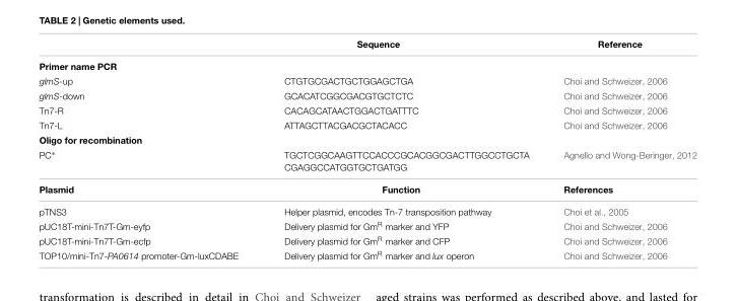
<table><thead><tr><td></td><td>Sequence</td><td>Reference</td></tr></thead><tbody><tr><td colspan="3">Primer name PCR</td></tr><tr><td>glmS-up</td><td>CTGTGCGACTGCTGGAGCTGA</td><td>Choi and Schweizer, 2006</td></tr><tr><td>glmS-down</td><td>GCACATCGGCGACGTGCTCTC</td><td>Choi and Schweizer, 2006</td></tr><tr><td>Tn7-R</td><td>CACAGCATAACTGGACTGATTTC</td><td>Choi and Schweizer, 2006</td></tr><tr><td>Tn7-L</td><td>ATTAGCTTACGACGCTACACC</td><td>Choi and Schweizer, 2006</td></tr><tr><td colspan="3">Oligo for recombination</td></tr><tr><td>PC∗</td><td>TGCTCGGCAAGTTCCACCCGCACGGCGACTTGGCCTGCTA CGAGGCCATGGTGCTGATGG</td><td>Agnello and Wong-Beringer, 2012</td></tr><tr><td>Plasmid</td><td>Function</td><td>References</td></tr><tr><td>pTNS3</td><td>Helper plasmid, encodes Tn-7 transposition pathway</td><td>Choi et al., 2005</td></tr><tr><td>pUC18T-mini-Tn7T-Gm-eyfp</td><td>Delivery plasmid for Gm<sup>R</sup> marker and YFP</td><td>Choi and Schweizer, 2006</td></tr><tr><td>pUC18T-mini-Tn7T-Gm-ecfp</td><td>Delivery plasmid for Gm<sup>R</sup> marker and CFP</td><td>Choi and Schweizer, 2006</td></tr><tr><td>TOP10/mini-Tn7-PA0614 promoter-Gm-luxCDABE</td><td>Delivery plasmid for Gm<sup>R</sup> marker and lux operon</td><td>Choi and Schweizer, 2006</td></tr></tbody></table>